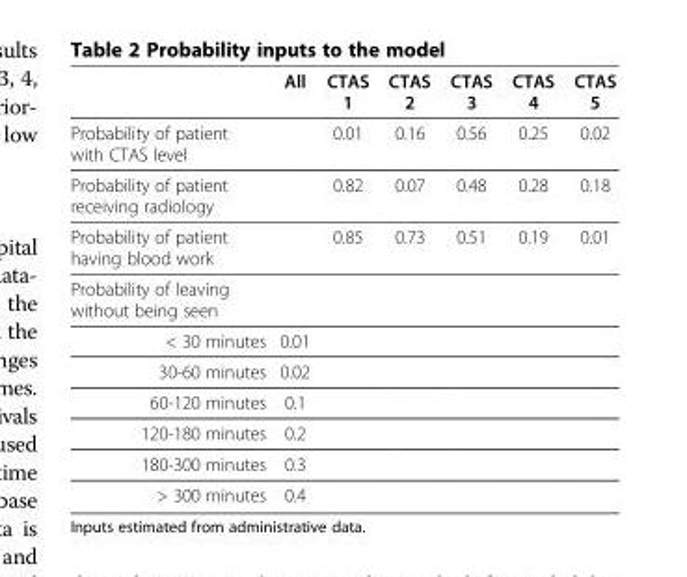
<table><thead><tr><td></td><td>All</td><td>CTAS 1</td><td>CTAS 2</td><td>CTAS 3</td><td>CTAS 4</td><td>CTAS 5</td></tr></thead><tbody><tr><td>Probability of patient with CTAS level</td><td></td><td>0.01</td><td>0.16</td><td>0.56</td><td>0.25</td><td>0.02</td></tr><tr><td>Probability of patient receiving radiology</td><td></td><td>0.82</td><td>0.07</td><td>0.48</td><td>0.28</td><td>0.18</td></tr><tr><td>Probability of patient having blood work</td><td></td><td>0.85</td><td>0.73</td><td>0.51</td><td>0.19</td><td>0.01</td></tr><tr><td colspan="7">Probability of leaving without being seen</td></tr><tr><td>&lt; 30 minutes</td><td>0.01</td><td></td><td></td><td></td><td></td><td></td></tr><tr><td>30-60 minutes</td><td>0.02</td><td></td><td></td><td></td><td></td><td></td></tr><tr><td>60-120 minutes</td><td>0.1</td><td></td><td></td><td></td><td></td><td></td></tr><tr><td>120-180 minutes</td><td>0.2</td><td></td><td></td><td></td><td></td><td></td></tr><tr><td>180-300 minutes</td><td>0.3</td><td></td><td></td><td></td><td></td><td></td></tr><tr><td>&gt; 300 minutes</td><td>0.4</td><td></td><td></td><td></td><td></td><td></td></tr></tbody></table>